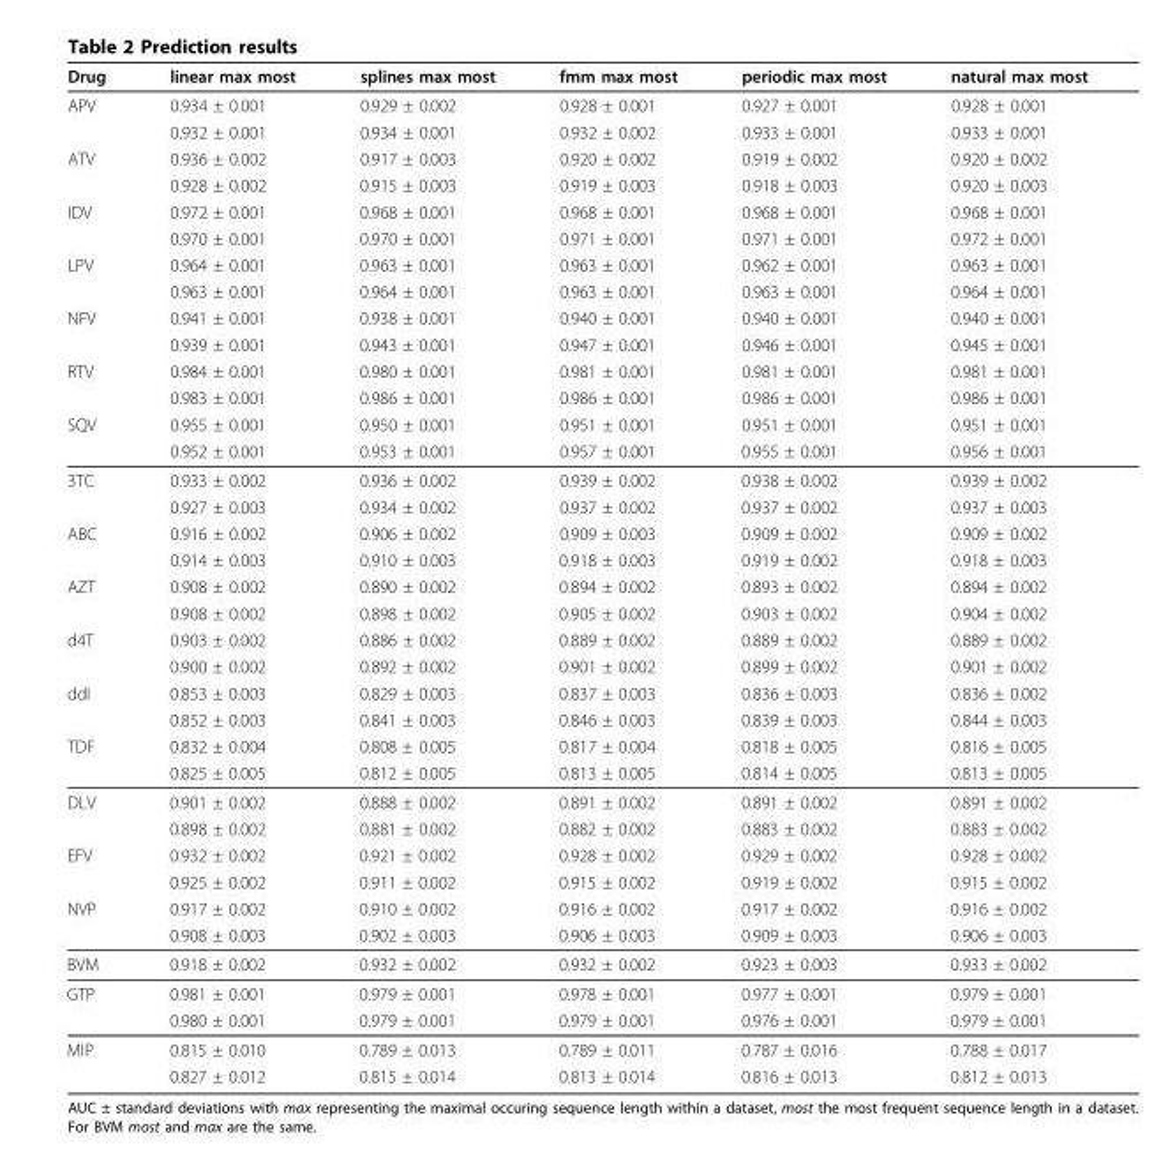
<table><thead><tr><td>Drug</td><td>linear max most</td><td>splines max most</td><td>fmm max most</td><td>periodic max most</td><td>natural max most</td></tr></thead><tbody><tr><td rowspan="2">APV</td><td>0.934 ± 0.001</td><td>0.929 ± 0.002</td><td>0.928 ± 0.001</td><td>0.927 ± 0.001</td><td>0.928 ± 0.001</td></tr><tr><td>0.932 ± 0.001</td><td>0.934 ± 0.001</td><td>0.932 ± 0.002</td><td>0.933 ± 0.001</td><td>0.933 ± 0.001</td></tr><tr><td rowspan="2">ATV</td><td>0.936 ± 0.002</td><td>0.917 ± 0.003</td><td>0.920 ± 0.002</td><td>0.919 ± 0.002</td><td>0.920 ± 0.002</td></tr><tr><td>0.928 ± 0.002</td><td>0.915 ± 0.003</td><td>0.919 ± 0.003</td><td>0.918 ± 0.003</td><td>0.920 ± 0.003</td></tr><tr><td rowspan="2">IDV</td><td>0.972 ± 0.001</td><td>0.968 ± 0.001</td><td>0.968 ± 0.001</td><td>0.968 ± 0.001</td><td>0.968 ± 0.001</td></tr><tr><td>0.970 ± 0.001</td><td>0.970 ± 0.001</td><td>0.971 ± 0.001</td><td>0.971 ± 0.001</td><td>0.972 ± 0.001</td></tr><tr><td rowspan="2">LPV</td><td>0.964 ± 0.001</td><td>0.963 ± 0.001</td><td>0.963 ± 0.001</td><td>0.962 ± 0.001</td><td>0.963 ± 0.001</td></tr><tr><td>0.963 ± 0.001</td><td>0.964 ± 0.001</td><td>0.963 ± 0.001</td><td>0.963 ± 0.001</td><td>0.964 ± 0.001</td></tr><tr><td rowspan="2">NFV</td><td>0.941 ± 0.001</td><td>0.938 ± 0.001</td><td>0.940 ± 0.001</td><td>0.940 ± 0.001</td><td>0.940 ± 0.001</td></tr><tr><td>0.939 ± 0.001</td><td>0.943 ± 0.001</td><td>0.947 ± 0.001</td><td>0.946 ± 0.001</td><td>0.945 ± 0.001</td></tr><tr><td rowspan="2">RTV</td><td>0.984 ± 0.001</td><td>0.980 ± 0.001</td><td>0.981 ± 0.001</td><td>0.981 ± 0.001</td><td>0.981 ± 0.001</td></tr><tr><td>0.983 ± 0.001</td><td>0.986 ± 0.001</td><td>0.986 ± 0.001</td><td>0.986 ± 0.001</td><td>0.986 ± 0.001</td></tr><tr><td rowspan="2">SQV</td><td>0.955 ± 0.001</td><td>0.950 ± 0.001</td><td>0.951 ± 0.001</td><td>0.951 ± 0.001</td><td>0.951 ± 0.001</td></tr><tr><td>0.952 ± 0.001</td><td>0.953 ± 0.001</td><td>0.957 ± 0.001</td><td>0.955 ± 0.001</td><td>0.956 ± 0.001</td></tr><tr><td rowspan="2">3TC</td><td>0.933 ± 0.002</td><td>0.936 ± 0.002</td><td>0.939 ± 0.002</td><td>0.938 ± 0.002</td><td>0.939 ± 0.002</td></tr><tr><td>0.927 ± 0.003</td><td>0.934 ± 0.002</td><td>0.937 ± 0.002</td><td>0.937 ± 0.002</td><td>0.937 ± 0.003</td></tr><tr><td rowspan="2">ABC</td><td>0.916 ± 0.002</td><td>0.906 ± 0.002</td><td>0.909 ± 0.003</td><td>0.909 ± 0.002</td><td>0.909 ± 0.002</td></tr><tr><td>0.914 ± 0.003</td><td>0.910 ± 0.003</td><td>0.918 ± 0.003</td><td>0.919 ± 0.002</td><td>0.918 ± 0.003</td></tr><tr><td rowspan="2">AZT</td><td>0.908 ± 0.002</td><td>0.890 ± 0.002</td><td>0.894 ± 0.002</td><td>0.893 ± 0.002</td><td>0.894 ± 0.002</td></tr><tr><td>0.908 ± 0.002</td><td>0.898 ± 0.002</td><td>0.905 ± 0.002</td><td>0.903 ± 0.002</td><td>0.904 ± 0.002</td></tr><tr><td rowspan="2">d4T</td><td>0.903 ± 0.002</td><td>0.886 ± 0.002</td><td>0.889 ± 0.002</td><td>0.889 ± 0.002</td><td>0.889 ± 0.002</td></tr><tr><td>0.900 ± 0.002</td><td>0.892 ± 0.002</td><td>0.901 ± 0.002</td><td>0.899 ± 0.002</td><td>0.901 ± 0.002</td></tr><tr><td rowspan="2">ddI</td><td>0.853 ± 0.003</td><td>0.829 ± 0.003</td><td>0.837 ± 0.003</td><td>0.836 ± 0.003</td><td>0.836 ± 0.002</td></tr><tr><td>0.852 ± 0.003</td><td>0.841 ± 0.003</td><td>0.846 ± 0.003</td><td>0.839 ± 0.003</td><td>0.844 ± 0.003</td></tr><tr><td rowspan="2">TDF</td><td>0.832 ± 0.004</td><td>0.808 ± 0.005</td><td>0.817 ± 0.004</td><td>0.818 ± 0.005</td><td>0.816 ± 0.005</td></tr><tr><td>0.825 ± 0.005</td><td>0.812 ± 0.005</td><td>0.813 ± 0.005</td><td>0.814 ± 0.005</td><td>0.813 ± 0.005</td></tr><tr><td rowspan="2">DLV</td><td>0.901 ± 0.002</td><td>0.888 ± 0.002</td><td>0.891 ± 0.002</td><td>0.891 ± 0.002</td><td>0.891 ± 0.002</td></tr><tr><td>0.898 ± 0.002</td><td>0.881 ± 0.002</td><td>0.882 ± 0.002</td><td>0.883 ± 0.002</td><td>0.883 ± 0.002</td></tr><tr><td rowspan="2">EFV</td><td>0.932 ± 0.002</td><td>0.921 ± 0.002</td><td>0.928 ± 0.002</td><td>0.929 ± 0.002</td><td>0.928 ± 0.002</td></tr><tr><td>0.925 ± 0.002</td><td>0.911 ± 0.002</td><td>0.915 ± 0.002</td><td>0.919 ± 0.002</td><td>0.915 ± 0.002</td></tr><tr><td rowspan="2">NVP</td><td>0.917 ± 0.002</td><td>0.910 ± 0.002</td><td>0.916 ± 0.002</td><td>0.917 ± 0.002</td><td>0.916 ± 0.002</td></tr><tr><td>0.908 ± 0.003</td><td>0.902 ± 0.003</td><td>0.906 ± 0.003</td><td>0.909 ± 0.003</td><td>0.906 ± 0.003</td></tr><tr><td>BVM</td><td>0.918 ± 0.002</td><td>0.932 ± 0.002</td><td>0.932 ± 0.002</td><td>0.923 ± 0.003</td><td>0.933 ± 0.002</td></tr><tr><td rowspan="2">GTP</td><td>0.981 ± 0.001</td><td>0.979 ± 0.001</td><td>0.978 ± 0.001</td><td>0.977 ± 0.001</td><td>0.979 ± 0.001</td></tr><tr><td>0.980 ± 0.001</td><td>0.979 ± 0.001</td><td>0.979 ± 0.001</td><td>0.976 ± 0.001</td><td>0.979 ± 0.001</td></tr><tr><td rowspan="2">MIP</td><td>0.815 ± 0.010</td><td>0.789 ± 0.013</td><td>0.789 ± 0.011</td><td>0.787 ± 0.016</td><td>0.788 ± 0.017</td></tr><tr><td>0.827 ± 0.012</td><td>0.815 ± 0.014</td><td>0.813 ± 0.014</td><td>0.816 ± 0.013</td><td>0.812 ± 0.013</td></tr></tbody></table>